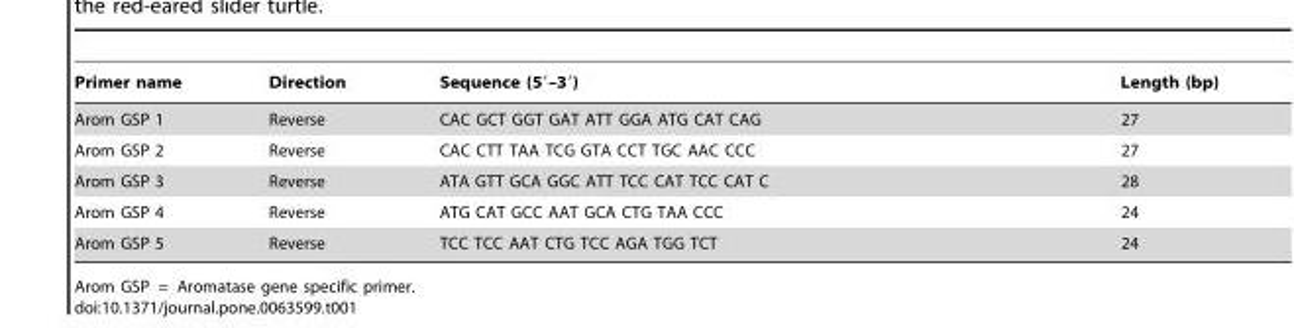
<table><thead><tr><td>Primer name</td><td>Direction</td><td>Sequence (5′–3′)</td><td>Length (bp)</td></tr></thead><tbody><tr><td>Arom GSP 1</td><td>Reverse</td><td>CAC GCT GGT GAT ATT GGA ATG CAT CAG</td><td>27</td></tr><tr><td>Arom GSP 2</td><td>Reverse</td><td>CAC CTT TAA TCG GTA CCT TGC AAC CCC</td><td>27</td></tr><tr><td>Arom GSP 3</td><td>Reverse</td><td>ATA GTT GCA GGC ATT TCC CAT TCC CAT C</td><td>28</td></tr><tr><td>Arom GSP 4</td><td>Reverse</td><td>ATG CAT GCC AAT GCA CTG TAA CCC</td><td>24</td></tr><tr><td>Arom GSP 5</td><td>Reverse</td><td>TCC TCC AAT CTG TCC AGA TGG TCT</td><td>24</td></tr></tbody></table>